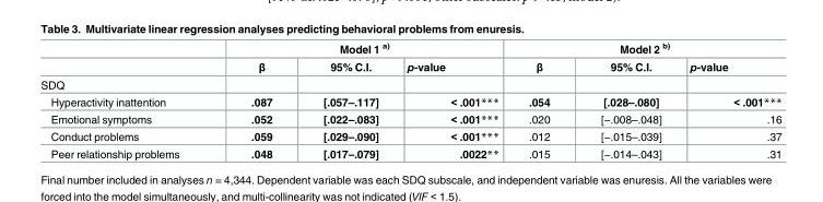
<table><thead><tr><td rowspan="2"></td><td colspan="3">Model 1 <sup>a)</sup></td><td colspan="3">Model 2 <sup>b)</sup></td></tr><tr><td>β</td><td>95% C.I.</td><td>p-value</td><td>β</td><td>95% C.I.</td><td>p-value</td></tr></thead><tbody><tr><td colspan="7">SDQ</td></tr><tr><td>Hyperactivity inattention</td><td>.087</td><td>[.057–.117]</td><td>&lt; .001***</td><td>.054</td><td>[.028–.080]</td><td>&lt; .001***</td></tr><tr><td>Emotional symptoms</td><td>.052</td><td>[.022–.083]</td><td>&lt; .001***</td><td>.020</td><td>[−.008–.048]</td><td>.16</td></tr><tr><td>Conduct problems</td><td>.059</td><td>[.029–.090]</td><td>&lt; .001***</td><td>.012</td><td>[−.015–.039]</td><td>.37</td></tr><tr><td>Peer relationship problems</td><td>.048</td><td>[.017–.079]</td><td>.0022**</td><td>.015</td><td>[−.014–.043]</td><td>.31</td></tr></tbody></table>